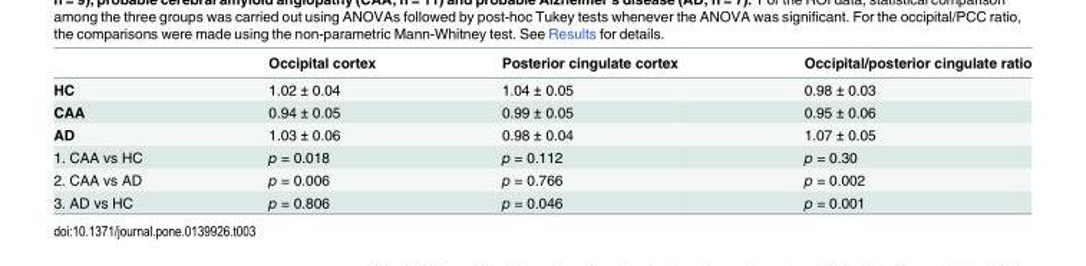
<table><thead><tr><td></td><td>Occipital cortex</td><td>Posterior cingulate cortex</td><td>Occipital/posterior cingulate ratio</td></tr></thead><tbody><tr><td>HC</td><td>1.02 ± 0.04</td><td>1.04 ± 0.05</td><td>0.98 ± 0.03</td></tr><tr><td>CAA</td><td>0.94 ± 0.05</td><td>0.99 ± 0.05</td><td>0.95 ± 0.06</td></tr><tr><td>AD</td><td>1.03 ± 0.06</td><td>0.98 ± 0.04</td><td>1.07 ± 0.05</td></tr><tr><td>1. CAA vs HC</td><td>p = 0.018</td><td>p = 0.112</td><td>p = 0.30</td></tr><tr><td>2. CAA vs AD</td><td>p = 0.006</td><td>p = 0.766</td><td>p = 0.002</td></tr><tr><td>3. AD vs HC</td><td>p = 0.806</td><td>p = 0.046</td><td>p = 0.001</td></tr></tbody></table>